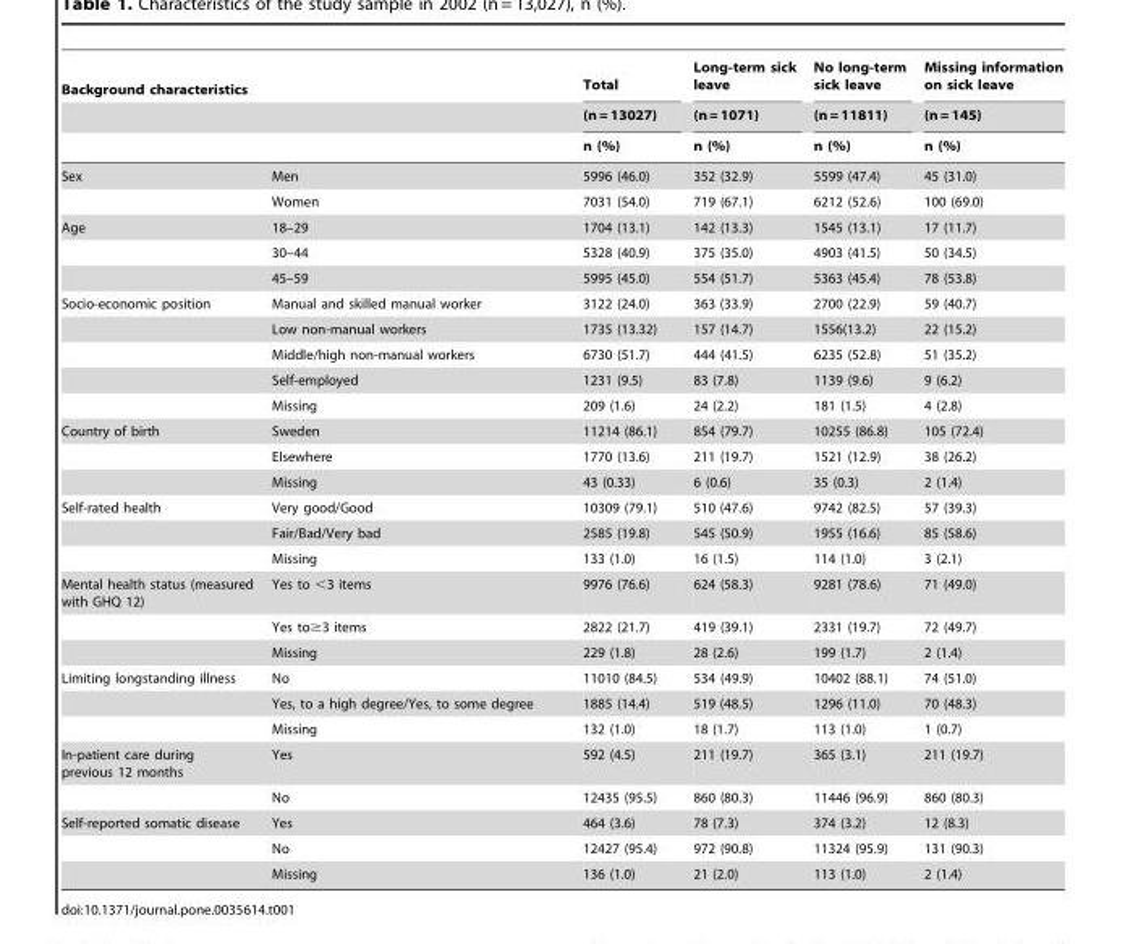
<table><thead><tr><td rowspan="3">Background characteristics</td><td rowspan="3"></td><td rowspan="3">Total (n = 13027) n (%)</td><td rowspan="3">Long-term sick leave (n = 1071) n (%)</td><td rowspan="3">No long-term sick leave (n = 11811) n (%)</td><td rowspan="3">Missing information on sick leave (n = 145) n (%)</td></tr><tr></tr><tr></tr></thead><tbody><tr><td rowspan="2">Sex</td><td>Men</td><td>5996 (46.0)</td><td>352 (32.9)</td><td>5599 (47.4)</td><td>45 (31.0)</td></tr><tr><td>Women</td><td>7031 (54.0)</td><td>719 (67.1)</td><td>6212 (52.6)</td><td>100 (69.0)</td></tr><tr><td rowspan="3">Age</td><td>18–29</td><td>1704 (13.1)</td><td>142 (13.3)</td><td>1545 (13.1)</td><td>17 (11.7)</td></tr><tr><td>30–44</td><td>5328 (40.9)</td><td>375 (35.0)</td><td>4903 (41.5)</td><td>50 (34.5)</td></tr><tr><td>45–59</td><td>5995 (45.0)</td><td>554 (51.7)</td><td>5363 (45.4)</td><td>78 (53.8)</td></tr><tr><td rowspan="5">Socio-economic position</td><td>Manual and skilled manual worker</td><td>3122 (24.0)</td><td>363 (33.9)</td><td>2700 (22.9)</td><td>59 (40.7)</td></tr><tr><td>Low non-manual workers</td><td>1735 (13.32)</td><td>157 (14.7)</td><td>1556(13.2)</td><td>22 (15.2)</td></tr><tr><td>Middle/high non-manual workers</td><td>6730 (51.7)</td><td>444 (41.5)</td><td>6235 (52.8)</td><td>51 (35.2)</td></tr><tr><td>Self-employed</td><td>1231 (9.5)</td><td>83 (7.8)</td><td>1139 (9.6)</td><td>9 (6.2)</td></tr><tr><td>Missing</td><td>209 (1.6)</td><td>24 (2.2)</td><td>181 (1.5)</td><td>4 (2.8)</td></tr><tr><td rowspan="3">Country of birth</td><td>Sweden</td><td>11214 (86.1)</td><td>854 (79.7)</td><td>10255 (86.8)</td><td>105 (72.4)</td></tr><tr><td>Elsewhere</td><td>1770 (13.6)</td><td>211 (19.7)</td><td>1521 (12.9)</td><td>38 (26.2)</td></tr><tr><td>Missing</td><td>43 (0.33)</td><td>6 (0.6)</td><td>35 (0.3)</td><td>2 (1.4)</td></tr><tr><td rowspan="3">Self-rated health</td><td>Very good/Good</td><td>10309 (79.1)</td><td>510 (47.6)</td><td>9742 (82.5)</td><td>57 (39.3)</td></tr><tr><td>Fair/Bad/Very bad</td><td>2585 (19.8)</td><td>545 (50.9)</td><td>1955 (16.6)</td><td>85 (58.6)</td></tr><tr><td>Missing</td><td>133 (1.0)</td><td>16 (1.5)</td><td>114 (1.0)</td><td>3 (2.1)</td></tr><tr><td rowspan="3">Mental health status (measured with GHQ 12)</td><td>Yes to &lt;3 items</td><td>9976 (76.6)</td><td>624 (58.3)</td><td>9281 (78.6)</td><td>71 (49.0)</td></tr><tr><td>Yes to≥3 items</td><td>2822 (21.7)</td><td>419 (39.1)</td><td>2331 (19.7)</td><td>72 (49.7)</td></tr><tr><td>Missing</td><td>229 (1.8)</td><td>28 (2.6)</td><td>199 (1.7)</td><td>2 (1.4)</td></tr><tr><td rowspan="3">Limiting longstanding illness</td><td>No</td><td>11010 (84.5)</td><td>534 (49.9)</td><td>10402 (88.1)</td><td>74 (51.0)</td></tr><tr><td>Yes, to a high degree/Yes, to some degree</td><td>1885 (14.4)</td><td>519 (48.5)</td><td>1296 (11.0)</td><td>70 (48.3)</td></tr><tr><td>Missing</td><td>132 (1.0)</td><td>18 (1.7)</td><td>113 (1.0)</td><td>1 (0.7)</td></tr><tr><td rowspan="2">In-patient care during previous 12 months</td><td>Yes</td><td>592 (4.5)</td><td>211 (19.7)</td><td>365 (3.1)</td><td>211 (19.7)</td></tr><tr><td>No</td><td>12435 (95.5)</td><td>860 (80.3)</td><td>11446 (96.9)</td><td>860 (80.3)</td></tr><tr><td rowspan="3">Self-reported somatic disease</td><td>Yes</td><td>464 (3.6)</td><td>78 (7.3)</td><td>374 (3.2)</td><td>12 (8.3)</td></tr><tr><td>No</td><td>12427 (95.4)</td><td>972 (90.8)</td><td>11324 (95.9)</td><td>131 (90.3)</td></tr><tr><td>Missing</td><td>136 (1.0)</td><td>21 (2.0)</td><td>113 (1.0)</td><td>2 (1.4)</td></tr></tbody></table>